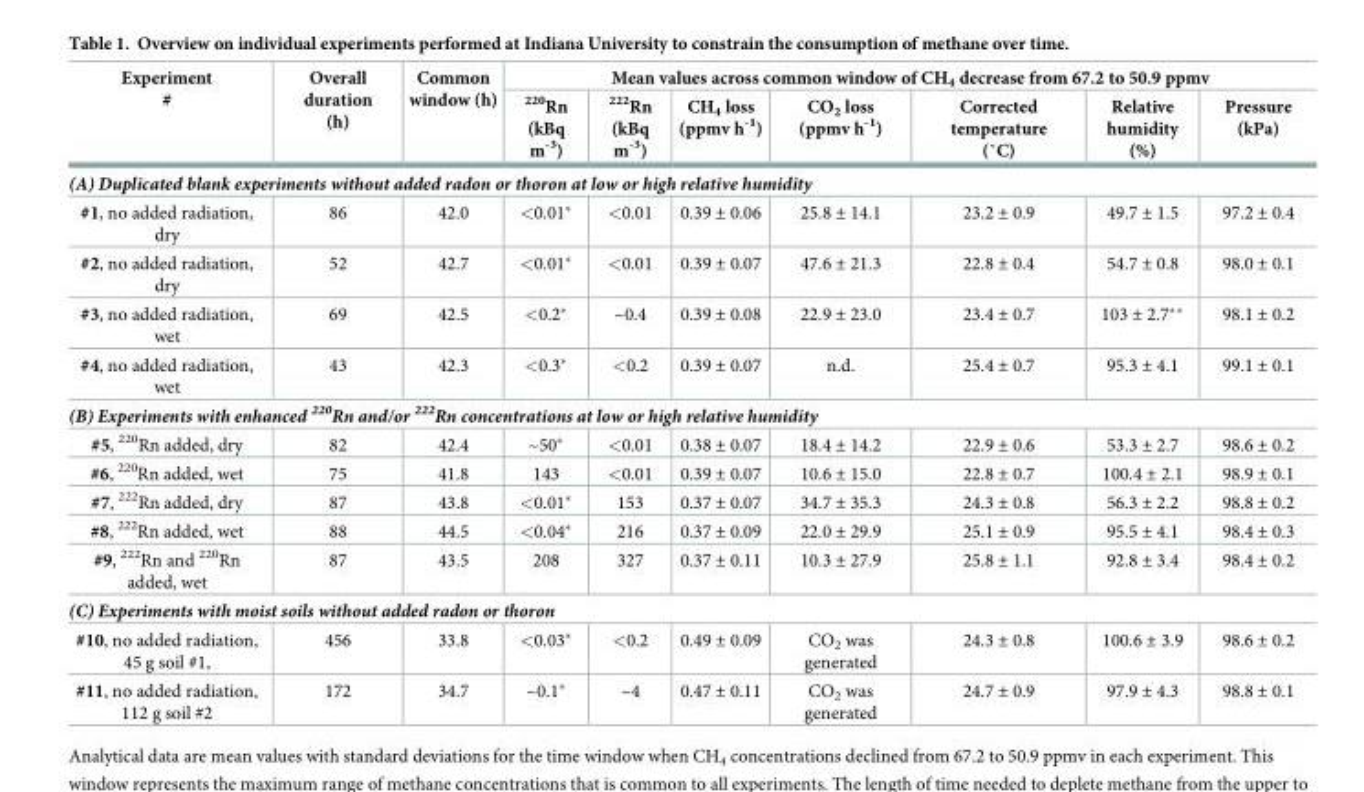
<table><thead><tr><td rowspan="2">Experiment #</td><td rowspan="2">Overall duration (h)</td><td rowspan="2">Common window (h)</td><td colspan="7">Mean values across common window of CH<sub>4</sub> decrease from 67.2 to 50.9 ppmv</td></tr><tr><td><sup>220</sup>Rn (kBq m<sup>-3</sup>)</td><td><sup>222</sup>Rn (kBq m<sup>-3</sup>)</td><td>CH<sub>4</sub> loss (ppmv h<sup>-1</sup>)</td><td>CO<sub>2</sub> loss (ppmv h<sup>-1</sup>)</td><td>Corrected temperature (˚C)</td><td>Relative humidity (%)</td><td>Pressure (kPa)</td></tr></thead><tbody><tr><td colspan="10">(A) Duplicated blank experiments without added radon or thoron at low or high relative humidity</td></tr><tr><td>#1, no added radiation, dry</td><td>86</td><td>42.0</td><td>&lt;0.01*</td><td>&lt;0.01</td><td>0.39 ± 0.06</td><td>25.8 ± 14.1</td><td>23.2 ± 0.9</td><td>49.7 ± 1.5</td><td>97.2 ± 0.4</td></tr><tr><td>#2, no added radiation, dry</td><td>52</td><td>42.7</td><td>&lt;0.01*</td><td>&lt;0.01</td><td>0.39 ± 0.07</td><td>47.6 ± 21.3</td><td>22.8 ± 0.4</td><td>54.7 ± 0.8</td><td>98.0 ± 0.1</td></tr><tr><td>#3, no added radiation, wet</td><td>69</td><td>42.5</td><td>&lt;0.2*</td><td>~0.4</td><td>0.39 ± 0.08</td><td>22.9 ± 23.0</td><td>23.4 ± 0.7</td><td>103 ± 2.7**</td><td>98.1 ± 0.2</td></tr><tr><td>#4, no added radiation, wet</td><td>43</td><td>42.3</td><td>&lt;0.3*</td><td>&lt;0.2</td><td>0.39 ± 0.07</td><td>n.d.</td><td>25.4 ± 0.7</td><td>95.3 ± 4.1</td><td>99.1 ± 0.1</td></tr><tr><td colspan="10">(B) Experiments with enhanced <sup>220</sup>Rn and/or <sup>222</sup>Rn concentrations at low or high relative humidity</td></tr><tr><td>#5, <sup>220</sup>Rn added, dry</td><td>82</td><td>42.4</td><td>~50*</td><td>&lt;0.01</td><td>0.38 ± 0.07</td><td>18.4 ± 14.2</td><td>22.9 ± 0.6</td><td>53.3 ± 2.7</td><td>98.6 ± 0.2</td></tr><tr><td>#6, <sup>220</sup>Rn added, wet</td><td>75</td><td>41.8</td><td>143</td><td>&lt;0.01</td><td>0.39 ± 0.07</td><td>10.6 ± 15.0</td><td>22.8 ± 0.7</td><td>100.4 ± 2.1</td><td>98.9 ± 0.1</td></tr><tr><td>#7, <sup>222</sup>Rn added, dry</td><td>87</td><td>43.8</td><td>&lt;0.01*</td><td>153</td><td>0.37 ± 0.07</td><td>34.7 ± 35.3</td><td>24.3 ± 0.8</td><td>56.3 ± 2.2</td><td>98.8 ± 0.2</td></tr><tr><td>#8, <sup>222</sup>Rn added, wet</td><td>88</td><td>44.5</td><td>&lt;0.04*</td><td>216</td><td>0.37 ± 0.09</td><td>22.0 ± 29.9</td><td>25.1 ± 0.9</td><td>95.5 ± 4.1</td><td>98.4 ± 0.3</td></tr><tr><td>#9, <sup>222</sup>Rn and <sup>220</sup>Rn added, wet</td><td>87</td><td>43.5</td><td>208</td><td>327</td><td>0.37 ± 0.11</td><td>10.3 ± 27.9</td><td>25.8 ± 1.1</td><td>92.8 ± 3.4</td><td>98.4 ± 0.2</td></tr><tr><td colspan="10">(C) Experiments with moist soils without added radon or thoron</td></tr><tr><td>#10, no added radiation, 45 g soil #1,</td><td>456</td><td>33.8</td><td>&lt;0.03*</td><td>&lt;0.2</td><td>0.49 ± 0.09</td><td>CO<sub>2</sub> was generated</td><td>24.3 ± 0.8</td><td>100.6 ± 3.9</td><td>98.6 ± 0.2</td></tr><tr><td>#11, no added radiation, 112 g soil #2</td><td>172</td><td>34.7</td><td>~0.1*</td><td>~4</td><td>0.47 ± 0.11</td><td>CO<sub>2</sub> was generated</td><td>24.7 ± 0.9</td><td>97.9 ± 4.3</td><td>98.8 ± 0.1</td></tr></tbody></table>